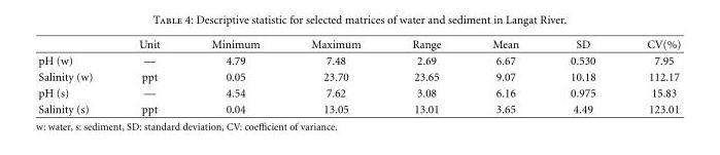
<table><thead><tr><td></td><td>Unit</td><td>Minimum</td><td>Maximum</td><td>Range</td><td>Mean</td><td>SD</td><td>CV(%)</td></tr></thead><tbody><tr><td>pH (w)</td><td>—</td><td>4.79</td><td>7.48</td><td>2.69</td><td>6.67</td><td>0.530</td><td>7.95</td></tr><tr><td>Salinity (w)</td><td>ppt</td><td>0.05</td><td>23.70</td><td>23.65</td><td>9.07</td><td>10.18</td><td>112.17</td></tr><tr><td>pH (s)</td><td>—</td><td>4.54</td><td>7.62</td><td>3.08</td><td>6.16</td><td>0.975</td><td>15.83</td></tr><tr><td>Salinity (s)</td><td>ppt</td><td>0.04</td><td>13.05</td><td>13.01</td><td>3.65</td><td>4.49</td><td>123.01</td></tr></tbody></table>